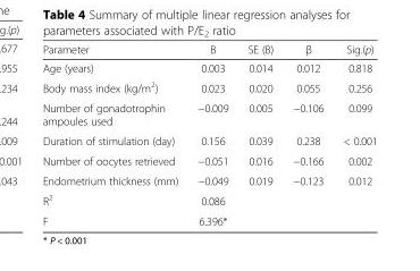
<table><thead><tr><td>Parameter</td><td>B</td><td>SE (B)</td><td>β</td><td>Sig.(p)</td></tr></thead><tbody><tr><td>Age (years)</td><td>0.003</td><td>0.014</td><td>0.012</td><td>0.818</td></tr><tr><td>Body mass index (kg/m<sup>2</sup>)</td><td>0.023</td><td>0.020</td><td>0.055</td><td>0.256</td></tr><tr><td>Number of gonadotrophin ampoules used</td><td>−0.009</td><td>0.005</td><td>−0.106</td><td>0.099</td></tr><tr><td>Duration of stimulation (day)</td><td>0.156</td><td>0.039</td><td>0.238</td><td>&lt; 0.001</td></tr><tr><td>Number of oocytes retrieved</td><td>−0.051</td><td>0.016</td><td>−0.166</td><td>0.002</td></tr><tr><td>Endometrium thickness (mm)</td><td>−0.049</td><td>0.019</td><td>−0.123</td><td>0.012</td></tr><tr><td>R<sup>2</sup></td><td>0.086</td><td></td><td></td><td></td></tr><tr><td>F</td><td>6.396*</td><td></td><td></td><td></td></tr></tbody></table>